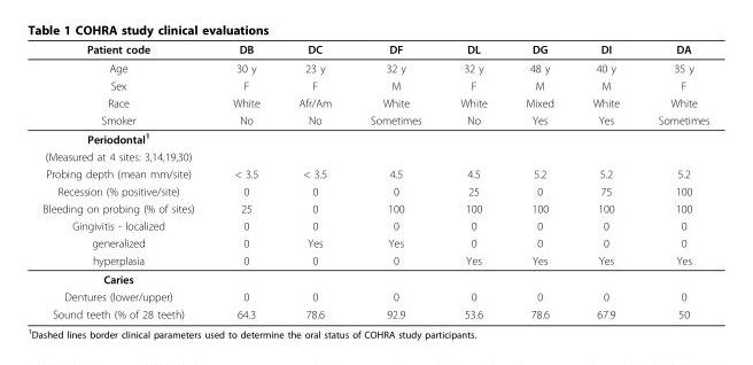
<table><thead><tr><td>Patient code</td><td>DB</td><td>DC</td><td>DF</td><td>DL</td><td>DG</td><td>DI</td><td>DA</td></tr></thead><tbody><tr><td>Age</td><td>30 y</td><td>23 y</td><td>32 y</td><td>32 y</td><td>48 y</td><td>40 y</td><td>35 y</td></tr><tr><td>Sex</td><td>F</td><td>F</td><td>M</td><td>F</td><td>M</td><td>M</td><td>F</td></tr><tr><td>Race</td><td>White</td><td>Afr/Am</td><td>White</td><td>White</td><td>Mixed</td><td>White</td><td>White</td></tr><tr><td>Smoker</td><td>No</td><td>No</td><td>Sometimes</td><td>No</td><td>Yes</td><td>Yes</td><td>Sometimes</td></tr><tr><td colspan="8">Periodontal<sup>1</sup></td></tr><tr><td colspan="8">(Measured at 4 sites: 3,14,19,30)</td></tr><tr><td>Probing depth (mean mm/site)</td><td>&lt; 3.5</td><td>&lt; 3.5</td><td>4.5</td><td>4.5</td><td>5.2</td><td>5.2</td><td>5.2</td></tr><tr><td>Recession (% positive/site)</td><td>0</td><td>0</td><td>0</td><td>25</td><td>0</td><td>75</td><td>100</td></tr><tr><td>Bleeding on probing (% of sites)</td><td>25</td><td>0</td><td>100</td><td>100</td><td>100</td><td>100</td><td>100</td></tr><tr><td>Gingivitis - localized</td><td>0</td><td>0</td><td>0</td><td>0</td><td>0</td><td>0</td><td>0</td></tr><tr><td>generalized</td><td>0</td><td>Yes</td><td>Yes</td><td>0</td><td>0</td><td>0</td><td>0</td></tr><tr><td>hyperplasia</td><td>0</td><td>0</td><td>0</td><td>Yes</td><td>Yes</td><td>Yes</td><td>Yes</td></tr><tr><td colspan="8">Caries</td></tr><tr><td>Dentures (lower/upper)</td><td>0</td><td>0</td><td>0</td><td>0</td><td>0</td><td>0</td><td>0</td></tr><tr><td>Sound teeth (% of 28 teeth)</td><td>64.3</td><td>78.6</td><td>92.9</td><td>53.6</td><td>78.6</td><td>67.9</td><td>50</td></tr></tbody></table>